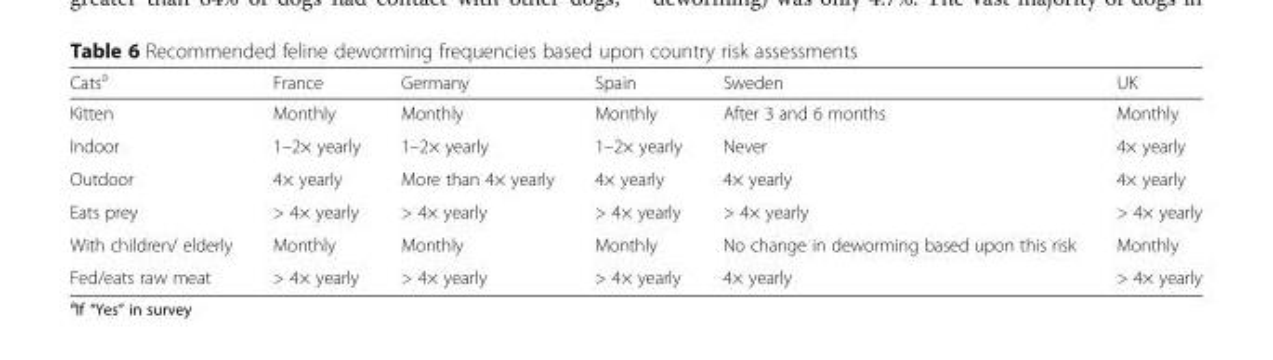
<table><thead><tr><td>Cats<sup>a</sup></td><td>France</td><td>Germany</td><td>Spain</td><td>Sweden</td><td>UK</td></tr></thead><tbody><tr><td>Kitten</td><td>Monthly</td><td>Monthly</td><td>Monthly</td><td>After 3 and 6 months</td><td>Monthly</td></tr><tr><td>Indoor</td><td>1–2× yearly</td><td>1–2× yearly</td><td>1–2× yearly</td><td>Never</td><td>4× yearly</td></tr><tr><td>Outdoor</td><td>4× yearly</td><td>More than 4× yearly</td><td>4× yearly</td><td>4× yearly</td><td>4× yearly</td></tr><tr><td>Eats prey</td><td>&gt; 4× yearly</td><td>&gt; 4× yearly</td><td>&gt; 4× yearly</td><td>&gt; 4× yearly</td><td>&gt; 4× yearly</td></tr><tr><td>With children/ elderly</td><td>Monthly</td><td>Monthly</td><td>Monthly</td><td>No change in deworming based upon this risk</td><td>Monthly</td></tr><tr><td>Fed/eats raw meat</td><td>&gt; 4× yearly</td><td>&gt; 4× yearly</td><td>&gt; 4× yearly</td><td>4× yearly</td><td>&gt; 4× yearly</td></tr></tbody></table>